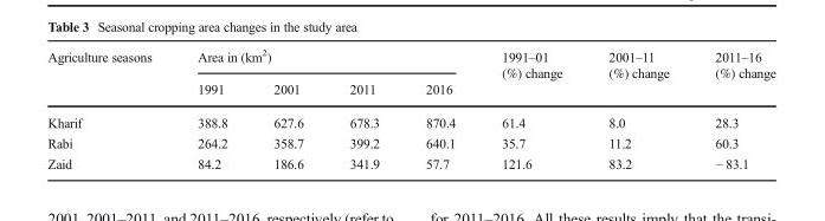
<table><thead><tr><td rowspan="2">Agriculture seasons</td><td colspan="4">Area in (km<sup>2</sup>)</td><td rowspan="2">1991–01 (%) change</td><td rowspan="2">2001–11 (%) change</td><td rowspan="2">2011–16 (%) change</td></tr><tr><td>1991</td><td>2001</td><td>2011</td><td>2016</td></tr></thead><tbody><tr><td>Kharif</td><td>388.8</td><td>627.6</td><td>678.3</td><td>870.4</td><td>61.4</td><td>8.0</td><td>28.3</td></tr><tr><td>Rabi</td><td>264.2</td><td>358.7</td><td>399.2</td><td>640.1</td><td>35.7</td><td>11.2</td><td>60.3</td></tr><tr><td>Zaid</td><td>84.2</td><td>186.6</td><td>341.9</td><td>57.7</td><td>121.6</td><td>83.2</td><td>− 83.1</td></tr></tbody></table>